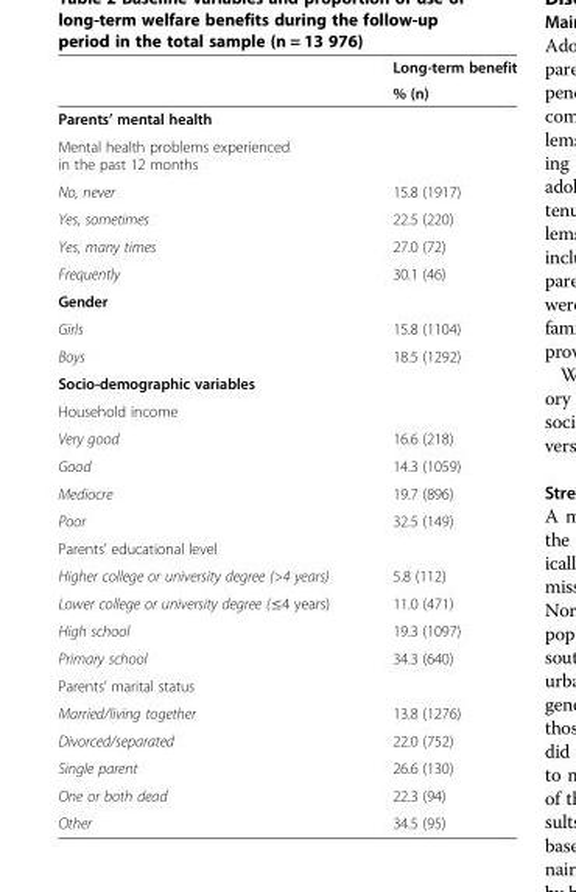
<table><thead><tr><td rowspan="2"></td><td rowspan="2">Long-term benefit % (n)</td></tr><tr></tr></thead><tbody><tr><td colspan="2">Parents’ mental health</td></tr><tr><td colspan="2">Mental health problems experienced in the past 12 months</td></tr><tr><td>No, never</td><td>15.8 (1917)</td></tr><tr><td>Yes, sometimes</td><td>22.5 (220)</td></tr><tr><td>Yes, many times</td><td>27.0 (72)</td></tr><tr><td>Frequently</td><td>30.1 (46)</td></tr><tr><td colspan="2">Gender</td></tr><tr><td>Girls</td><td>15.8 (1104)</td></tr><tr><td>Boys</td><td>18.5 (1292)</td></tr><tr><td colspan="2">Socio-demographic variables</td></tr><tr><td colspan="2">Household income</td></tr><tr><td>Very good</td><td>16.6 (218)</td></tr><tr><td>Good</td><td>14.3 (1059)</td></tr><tr><td>Mediocre</td><td>19.7 (896)</td></tr><tr><td>Poor</td><td>32.5 (149)</td></tr><tr><td colspan="2">Parents’ educational level</td></tr><tr><td>Higher college or university degree (&gt;4 years)</td><td>5.8 (112)</td></tr><tr><td>Lower college or university degree (≤4 years)</td><td>11.0 (471)</td></tr><tr><td>High school</td><td>19.3 (1097)</td></tr><tr><td>Primary school</td><td>34.3 (640)</td></tr><tr><td colspan="2">Parents’ marital status</td></tr><tr><td>Married/living together</td><td>13.8 (1276)</td></tr><tr><td>Divorced/separated</td><td>22.0 (752)</td></tr><tr><td>Single parent</td><td>26.6 (130)</td></tr><tr><td>One or both dead</td><td>22.3 (94)</td></tr><tr><td>Other</td><td>34.5 (95)</td></tr></tbody></table>